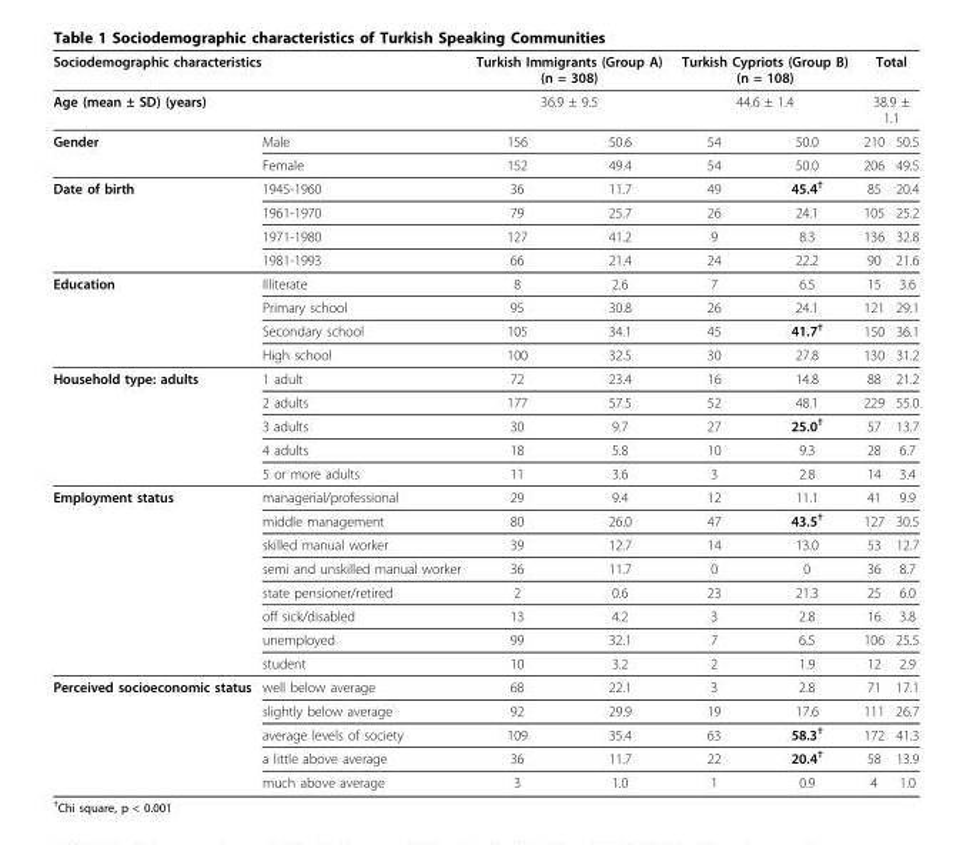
<table><thead><tr><td rowspan="2" colspan="2">Sociodemographic characteristics Age (mean ± SD) (years)</td><td rowspan="2" colspan="2">Turkish Immigrants (Group A) (n = 308) 36.9 ± 9.5</td><td rowspan="2" colspan="2">Turkish Cypriots (Group B) (n = 108) 44.6 ± 1.4</td><td rowspan="2" colspan="2">Total 38.9 ± 1.1</td></tr><tr></tr><tr><td>Gender</td><td>Male</td><td>156</td><td>50.6</td><td>54</td><td>50.0</td><td>210</td><td>50.5</td></tr></thead><tbody><tr><td></td><td>Female</td><td>152</td><td>49.4</td><td>54</td><td>50.0</td><td>206</td><td>49.5</td></tr><tr><td rowspan="4">Date of birth</td><td>1945-1960</td><td>36</td><td>11.7</td><td>49</td><td>45.4<sup>†</sup></td><td>85</td><td>20.4</td></tr><tr><td>1961-1970</td><td>79</td><td>25.7</td><td>26</td><td>24.1</td><td>105</td><td>25.2</td></tr><tr><td>1971-1980</td><td>127</td><td>41.2</td><td>9</td><td>8.3</td><td>136</td><td>32.8</td></tr><tr><td>1981-1993</td><td>66</td><td>21.4</td><td>24</td><td>22.2</td><td>90</td><td>21.6</td></tr><tr><td rowspan="4">Education</td><td>Illiterate</td><td>8</td><td>2.6</td><td>7</td><td>6.5</td><td>15</td><td>3.6</td></tr><tr><td>Primary school</td><td>95</td><td>30.8</td><td>26</td><td>24.1</td><td>121</td><td>29.1</td></tr><tr><td>Secondary school</td><td>105</td><td>34.1</td><td>45</td><td>41.7<sup>†</sup></td><td>150</td><td>36.1</td></tr><tr><td>High school</td><td>100</td><td>32.5</td><td>30</td><td>27.8</td><td>130</td><td>31.2</td></tr><tr><td rowspan="5">Household type: adults</td><td>1 adult</td><td>72</td><td>23.4</td><td>16</td><td>14.8</td><td>88</td><td>21.2</td></tr><tr><td>2 adults</td><td>177</td><td>57.5</td><td>52</td><td>48.1</td><td>229</td><td>55.0</td></tr><tr><td>3 adults</td><td>30</td><td>9.7</td><td>27</td><td>25.0<sup>†</sup></td><td>57</td><td>13.7</td></tr><tr><td>4 adults</td><td>18</td><td>5.8</td><td>10</td><td>9.3</td><td>28</td><td>6.7</td></tr><tr><td>5 or more adults</td><td>11</td><td>3.6</td><td>3</td><td>2.8</td><td>14</td><td>3.4</td></tr><tr><td rowspan="8">Employment status</td><td>managerial/professional</td><td>29</td><td>9.4</td><td>12</td><td>11.1</td><td>41</td><td>9.9</td></tr><tr><td>middle management</td><td>80</td><td>26.0</td><td>47</td><td>43.5<sup>†</sup></td><td>127</td><td>30.5</td></tr><tr><td>skilled manual worker</td><td>39</td><td>12.7</td><td>14</td><td>13.0</td><td>53</td><td>12.7</td></tr><tr><td>semi and unskilled manual worker</td><td>36</td><td>11.7</td><td>0</td><td>0</td><td>36</td><td>8.7</td></tr><tr><td>state pensioner/retired</td><td>2</td><td>0.6</td><td>23</td><td>21.3</td><td>25</td><td>6.0</td></tr><tr><td>off sick/disabled</td><td>13</td><td>4.2</td><td>3</td><td>2.8</td><td>16</td><td>3.8</td></tr><tr><td>unemployed</td><td>99</td><td>32.1</td><td>7</td><td>6.5</td><td>106</td><td>25.5</td></tr><tr><td>student</td><td>10</td><td>3.2</td><td>2</td><td>1.9</td><td>12</td><td>2.9</td></tr><tr><td rowspan="5">Perceived socioeconomic status</td><td>well below average</td><td>68</td><td>22.1</td><td>3</td><td>2.8</td><td>71</td><td>17.1</td></tr><tr><td>slightly below average</td><td>92</td><td>29.9</td><td>19</td><td>17.6</td><td>111</td><td>26.7</td></tr><tr><td>average levels of society</td><td>109</td><td>35.4</td><td>63</td><td>58.3<sup>†</sup></td><td>172</td><td>41.3</td></tr><tr><td>a little above average</td><td>36</td><td>11.7</td><td>22</td><td>20.4<sup>†</sup></td><td>58</td><td>13.9</td></tr><tr><td>much above average</td><td>3</td><td>1.0</td><td>1</td><td>0.9</td><td>4</td><td>1.0</td></tr></tbody></table>